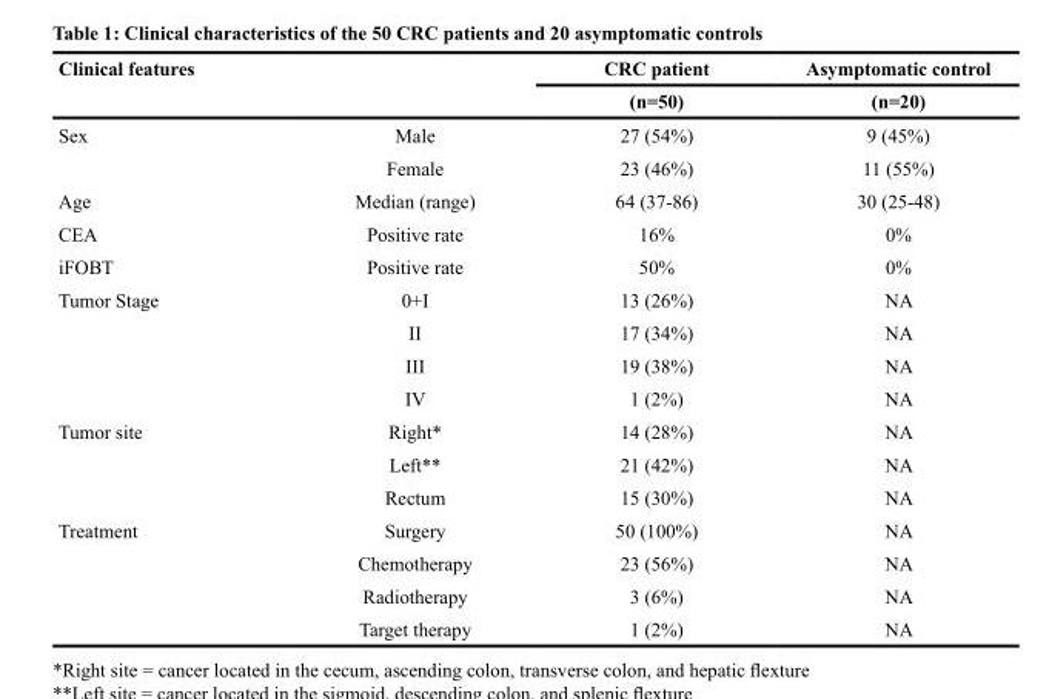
<table><thead><tr><td rowspan="2">Clinical features</td><td rowspan="2"></td><td rowspan="2">CRC patient (n=50)</td><td rowspan="2">Asymptomatic control (n=20)</td></tr><tr></tr></thead><tbody><tr><td rowspan="2">Sex</td><td>Male</td><td>27 (54%)</td><td>9 (45%)</td></tr><tr><td>Female</td><td>23 (46%)</td><td>11 (55%)</td></tr><tr><td>Age</td><td>Median (range)</td><td>64 (37-86)</td><td>30 (25-48)</td></tr><tr><td>CEA</td><td>Positive rate</td><td>16%</td><td>0%</td></tr><tr><td>iFOBT</td><td>Positive rate</td><td>50%</td><td>0%</td></tr><tr><td rowspan="4">Tumor Stage</td><td>0+I</td><td>13 (26%)</td><td>NA</td></tr><tr><td>II</td><td>17 (34%)</td><td>NA</td></tr><tr><td>III</td><td>19 (38%)</td><td>NA</td></tr><tr><td>IV</td><td>1 (2%)</td><td>NA</td></tr><tr><td rowspan="3">Tumor site</td><td>Right*</td><td>14 (28%)</td><td>NA</td></tr><tr><td>Left**</td><td>21 (42%)</td><td>NA</td></tr><tr><td>Rectum</td><td>15 (30%)</td><td>NA</td></tr><tr><td rowspan="4">Treatment</td><td>Surgery</td><td>50 (100%)</td><td>NA</td></tr><tr><td>Chemotherapy</td><td>23 (56%)</td><td>NA</td></tr><tr><td>Radiotherapy</td><td>3 (6%)</td><td>NA</td></tr><tr><td>Target therapy</td><td>1 (2%)</td><td>NA</td></tr></tbody></table>